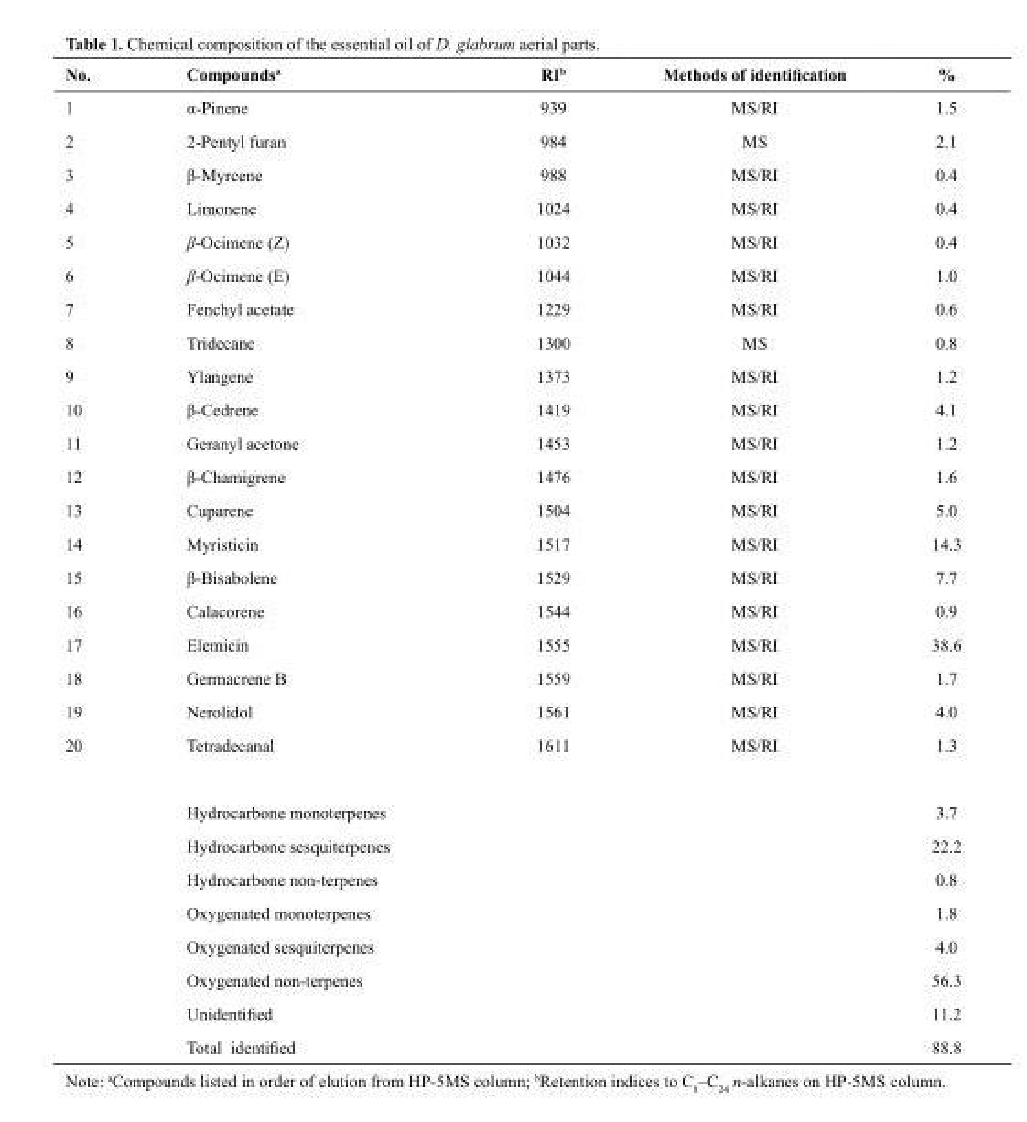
<table><thead><tr><td>No.</td><td>Compoundsa</td><td>RIb</td><td>Methods of identification</td><td>%</td></tr></thead><tbody><tr><td>1</td><td>α-Pinene</td><td>939</td><td>MS/RI</td><td>1.5</td></tr><tr><td>2</td><td>2-Pentyl furan</td><td>984</td><td>MS</td><td>2.1</td></tr><tr><td>3</td><td>β-Myrcene</td><td>988</td><td>MS/RI</td><td>0.4</td></tr><tr><td>4</td><td>Limonene</td><td>1024</td><td>MS/RI</td><td>0.4</td></tr><tr><td>5</td><td>β-Ocimene (Z)</td><td>1032</td><td>MS/RI</td><td>0.4</td></tr><tr><td>6</td><td>β-Ocimene (E)</td><td>1044</td><td>MS/RI</td><td>1.0</td></tr><tr><td>7</td><td>Fenchyl acetate</td><td>1229</td><td>MS/RI</td><td>0.6</td></tr><tr><td>8</td><td>Tridecane</td><td>1300</td><td>MS</td><td>0.8</td></tr><tr><td>9</td><td>Ylangene</td><td>1373</td><td>MS/RI</td><td>1.2</td></tr><tr><td>10</td><td>β-Cedrene</td><td>1419</td><td>MS/RI</td><td>4.1</td></tr><tr><td>11</td><td>Geranyl acetone</td><td>1453</td><td>MS/RI</td><td>1.2</td></tr><tr><td>12</td><td>β-Chamigrene</td><td>1476</td><td>MS/RI</td><td>1.6</td></tr><tr><td>13</td><td>Cuparene</td><td>1504</td><td>MS/RI</td><td>5.0</td></tr><tr><td>14</td><td>Myristicin</td><td>1517</td><td>MS/RI</td><td>14.3</td></tr><tr><td>15</td><td>β-Bisabolene</td><td>1529</td><td>MS/RI</td><td>7.7</td></tr><tr><td>16</td><td>Calacorene</td><td>1544</td><td>MS/RI</td><td>0.9</td></tr><tr><td>17</td><td>Elemicin</td><td>1555</td><td>MS/RI</td><td>38.6</td></tr><tr><td>18</td><td>Germacrene B</td><td>1559</td><td>MS/RI</td><td>1.7</td></tr><tr><td>19</td><td>Nerolidol</td><td>1561</td><td>MS/RI</td><td>4.0</td></tr><tr><td rowspan="9">20</td><td>Tetradecanal</td><td>1611</td><td>MS/RI</td><td>1.3</td></tr><tr><td>Hydrocarbone monoterpenes</td><td></td><td></td><td>3.7</td></tr><tr><td>Hydrocarbone sesquiterpenes</td><td></td><td></td><td>22.2</td></tr><tr><td>Hydrocarbone non-terpenes</td><td></td><td></td><td>0.8</td></tr><tr><td>Oxygenated monoterpenes</td><td></td><td></td><td>1.8</td></tr><tr><td>Oxygenated sesquiterpenes</td><td></td><td></td><td>4.0</td></tr><tr><td>Oxygenated non-terpenes</td><td></td><td></td><td>56.3</td></tr><tr><td>Unidentified</td><td></td><td></td><td>11.2</td></tr><tr><td>Total identified</td><td></td><td></td><td>88.8</td></tr></tbody></table>